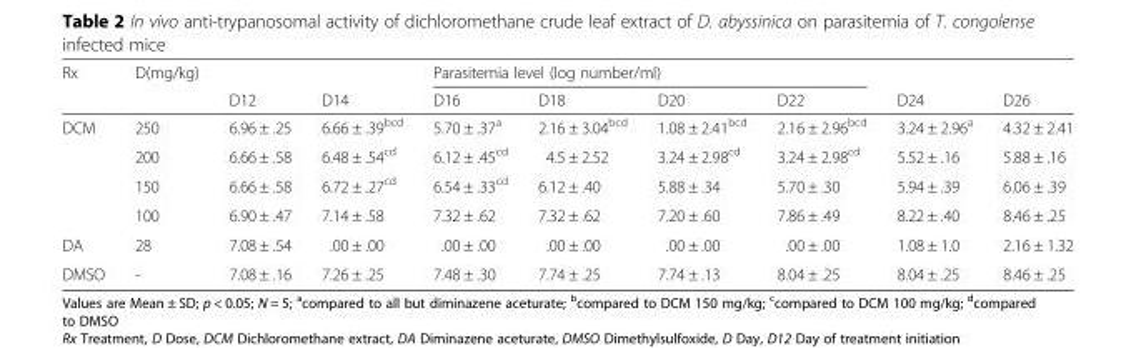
<table><thead><tr><td rowspan="2">Rx</td><td rowspan="2">D(mg/kg)</td><td rowspan="2">D12</td><td rowspan="2">D14</td><td colspan="4">Parasitemia level (log number/ml)</td><td rowspan="2">D24</td><td rowspan="2">D26</td></tr><tr><td>D16</td><td>D18</td><td>D20</td><td>D22</td></tr></thead><tbody><tr><td rowspan="4">DCM</td><td>250</td><td>6.96 ± .25</td><td>6.66 ± .39<sup>bcd</sup></td><td>5.70 ± .37<sup>a</sup></td><td>2.16 ± 3.04<sup>bcd</sup></td><td>1.08 ± 2.41<sup>bcd</sup></td><td>2.16 ± 2.96<sup>bcd</sup></td><td>3.24 ± 2.96<sup>a</sup></td><td>4.32 ± 2.41</td></tr><tr><td>200</td><td>6.66 ± .58</td><td>6.48 ± .54<sup>cd</sup></td><td>6.12 ± .45<sup>cd</sup></td><td>4.5 ± 2.52</td><td>3.24 ± 2.98<sup>cd</sup></td><td>3.24 ± 2.98<sup>cd</sup></td><td>5.52 ± .16</td><td>5.88 ± .16</td></tr><tr><td>150</td><td>6.66 ± .58</td><td>6.72 ± .27<sup>cd</sup></td><td>6.54 ± .33<sup>cd</sup></td><td>6.12 ± .40</td><td>5.88 ± .34</td><td>5.70 ± .30</td><td>5.94 ± .39</td><td>6.06 ± .39</td></tr><tr><td>100</td><td>6.90 ± .47</td><td>7.14 ± .58</td><td>7.32 ± .62</td><td>7.32 ± .62</td><td>7.20 ± .60</td><td>7.86 ± .49</td><td>8.22 ± .40</td><td>8.46 ± .25</td></tr><tr><td>DA</td><td>28</td><td>7.08 ± .54</td><td>.00 ± .00</td><td>.00 ± .00</td><td>.00 ± .00</td><td>.00 ± .00</td><td>.00 ± .00</td><td>1.08 ± 1.0</td><td>2.16 ± 1.32</td></tr><tr><td>DMSO</td><td>-</td><td>7.08 ± .16</td><td>7.26 ± .25</td><td>7.48 ± .30</td><td>7.74 ± .25</td><td>7.74 ± .13</td><td>8.04 ± .25</td><td>8.04 ± .25</td><td>8.46 ± .25</td></tr></tbody></table>